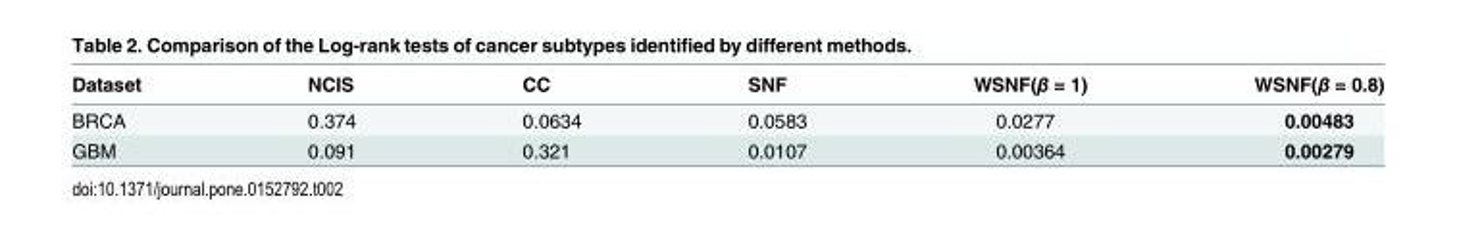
<table><thead><tr><td>Dataset</td><td>NCIS</td><td>CC</td><td>SNF</td><td>WSNF(β = 1)</td><td>WSNF(β = 0.8)</td></tr></thead><tbody><tr><td>BRCA</td><td>0.374</td><td>0.0634</td><td>0.0583</td><td>0.0277</td><td>0.00483</td></tr><tr><td>GBM</td><td>0.091</td><td>0.321</td><td>0.0107</td><td>0.00364</td><td>0.00279</td></tr></tbody></table>